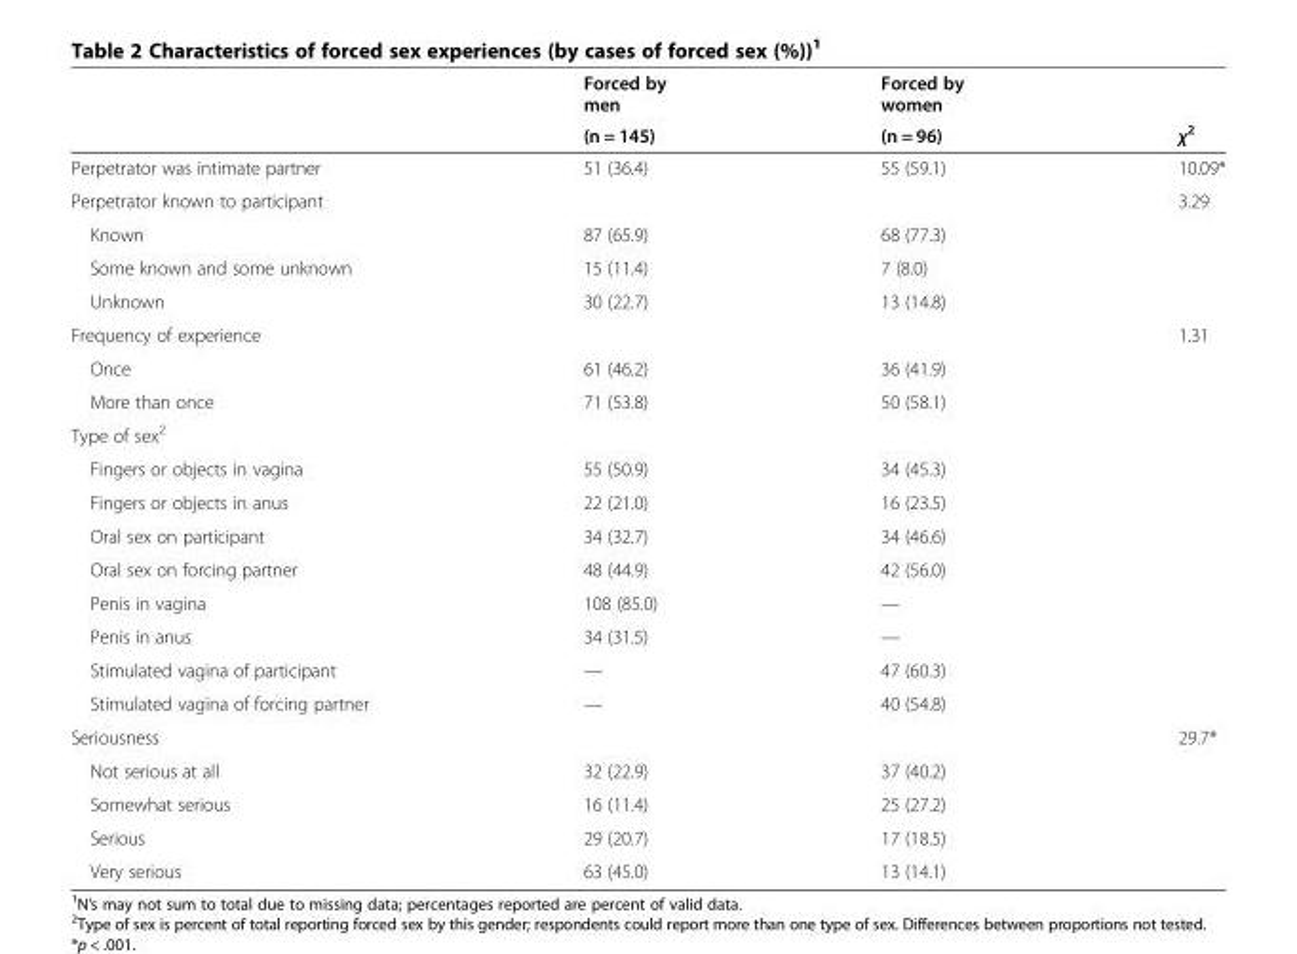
<table><thead><tr><td rowspan="2"></td><td rowspan="2">Forced by men (n = 145)</td><td rowspan="2">Forced by women (n = 96)</td><td rowspan="2">χ<sup>2</sup></td></tr><tr></tr></thead><tbody><tr><td>Perpetrator was intimate partner</td><td>51 (36.4)</td><td>55 (59.1)</td><td>10.09*</td></tr><tr><td>Perpetrator known to participant</td><td></td><td></td><td>3.29</td></tr><tr><td>Known</td><td>87 (65.9)</td><td>68 (77.3)</td><td></td></tr><tr><td>Some known and some unknown</td><td>15 (11.4)</td><td>7 (8.0)</td><td></td></tr><tr><td>Unknown</td><td>30 (22.7)</td><td>13 (14.8)</td><td></td></tr><tr><td>Frequency of experience</td><td></td><td></td><td>1.31</td></tr><tr><td>Once</td><td>61 (46.2)</td><td>36 (41.9)</td><td></td></tr><tr><td>More than once</td><td>71 (53.8)</td><td>50 (58.1)</td><td></td></tr><tr><td colspan="4">Type of sex<sup>2</sup></td></tr><tr><td>Fingers or objects in vagina</td><td>55 (50.9)</td><td>34 (45.3)</td><td></td></tr><tr><td>Fingers or objects in anus</td><td>22 (21.0)</td><td>16 (23.5)</td><td></td></tr><tr><td>Oral sex on participant</td><td>34 (32.7)</td><td>34 (46.6)</td><td></td></tr><tr><td>Oral sex on forcing partner</td><td>48 (44.9)</td><td>42 (56.0)</td><td></td></tr><tr><td>Penis in vagina</td><td>108 (85.0)</td><td>—</td><td></td></tr><tr><td>Penis in anus</td><td>34 (31.5)</td><td>—</td><td></td></tr><tr><td>Stimulated vagina of participant</td><td>—</td><td>47 (60.3)</td><td></td></tr><tr><td>Stimulated vagina of forcing partner</td><td>—</td><td>40 (54.8)</td><td></td></tr><tr><td>Seriousness</td><td></td><td></td><td>29.7*</td></tr><tr><td>Not serious at all</td><td>32 (22.9)</td><td>37 (40.2)</td><td></td></tr><tr><td>Somewhat serious</td><td>16 (11.4)</td><td>25 (27.2)</td><td></td></tr><tr><td>Serious</td><td>29 (20.7)</td><td>17 (18.5)</td><td></td></tr><tr><td>Very serious</td><td>63 (45.0)</td><td>13 (14.1)</td><td></td></tr></tbody></table>